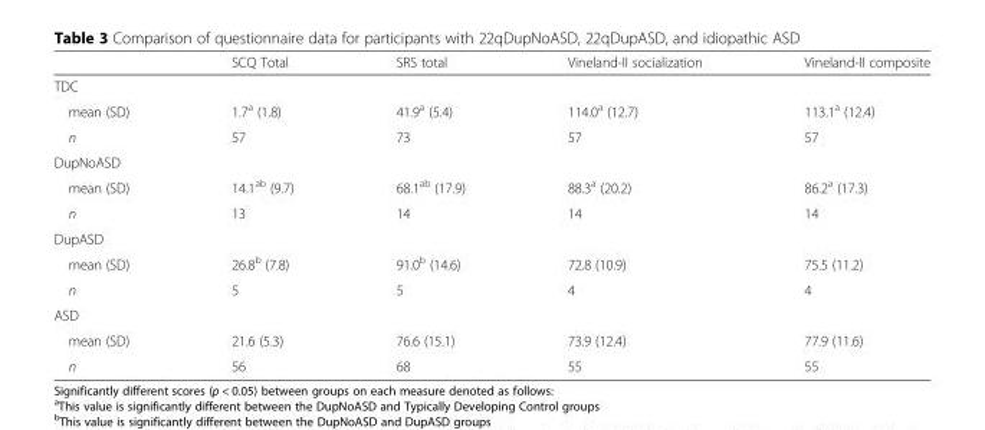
<table><thead><tr><td></td><td>SCQ Total</td><td>SRS total</td><td>Vineland-II socialization</td><td>Vineland-II composite</td></tr></thead><tbody><tr><td colspan="5">TDC</td></tr><tr><td>mean (SD)</td><td>1.7<sup>a</sup> (1.8)</td><td>41.9<sup>a</sup> (5.4)</td><td>114.0<sup>a</sup> (12.7)</td><td>113.1<sup>a</sup> (12.4)</td></tr><tr><td>n</td><td>57</td><td>73</td><td>57</td><td>57</td></tr><tr><td colspan="5">DupNoASD</td></tr><tr><td>mean (SD)</td><td>14.1<sup>ab</sup> (9.7)</td><td>68.1<sup>ab</sup> (17.9)</td><td>88.3<sup>a</sup> (20.2)</td><td>86.2<sup>a</sup> (17.3)</td></tr><tr><td>n</td><td>13</td><td>14</td><td>14</td><td>14</td></tr><tr><td colspan="5">DupASD</td></tr><tr><td>mean (SD)</td><td>26.8<sup>b</sup> (7.8)</td><td>91.0<sup>b</sup> (14.6)</td><td>72.8 (10.9)</td><td>75.5 (11.2)</td></tr><tr><td>n</td><td>5</td><td>5</td><td>4</td><td>4</td></tr><tr><td colspan="5">ASD</td></tr><tr><td>mean (SD)</td><td>21.6 (5.3)</td><td>76.6 (15.1)</td><td>73.9 (12.4)</td><td>77.9 (11.6)</td></tr><tr><td>n</td><td>56</td><td>68</td><td>55</td><td>55</td></tr></tbody></table>